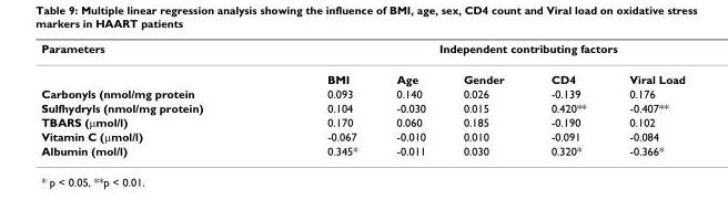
<table><thead><tr><td rowspan="2">Parameters</td><td colspan="5">Independent contributing factors</td></tr><tr><td>BMI</td><td>Age</td><td>Gender</td><td>CD4</td><td>Viral Load</td></tr></thead><tbody><tr><td>Carbonyls (nmol/mg protein</td><td>0.093</td><td>0.140</td><td>0.026</td><td>-0.139</td><td>0.176</td></tr><tr><td>Sulfhydryls (nmol/mg protein)</td><td>0.104</td><td>-0.030</td><td>0.015</td><td>0.420**</td><td>-0.407**</td></tr><tr><td>TBARS (μmol/l)</td><td>0.170</td><td>0.060</td><td>0.185</td><td>-0.190</td><td>0.102</td></tr><tr><td>Vitamin C (μmol/l)</td><td>-0.067</td><td>-0.010</td><td>0.010</td><td>-0.091</td><td>-0.084</td></tr><tr><td>Albumin (mol/l)</td><td>0.345*</td><td>-0.011</td><td>0.030</td><td>0.320*</td><td>-0.366*</td></tr></tbody></table>